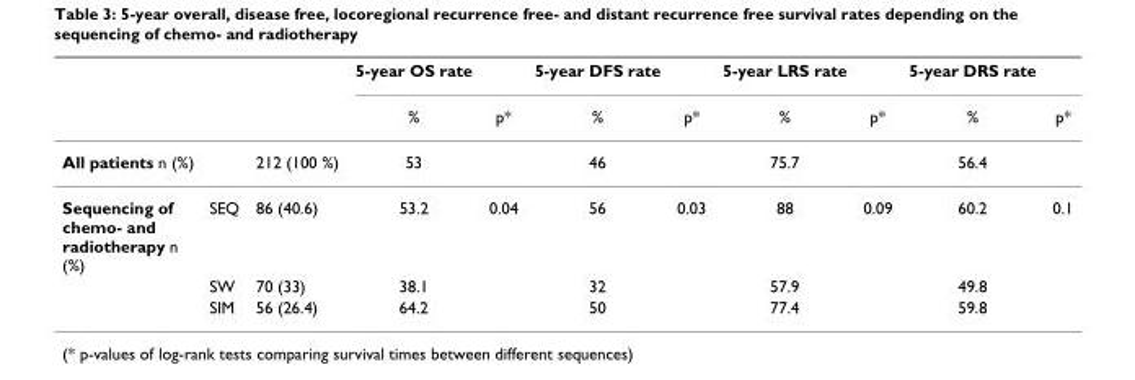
<table><thead><tr><td rowspan="2"></td><td rowspan="2"></td><td rowspan="2"></td><td rowspan="2">5-year OS rate %</td><td rowspan="2">p*</td><td rowspan="2">5-year DFS rate %</td><td rowspan="2">p*</td><td rowspan="2">5-year LRS rate %</td><td rowspan="2">p*</td><td rowspan="2">5-year DRS rate %</td><td rowspan="2">p*</td></tr><tr></tr></thead><tbody><tr><td colspan="2">All patients n (%)</td><td>212 (100 %)</td><td>53</td><td></td><td>46</td><td></td><td>75.7</td><td></td><td>56.4</td><td></td></tr><tr><td rowspan="3">Sequencing of chemo- and radiotherapy n (%)</td><td>SEQ</td><td>86 (40.6)</td><td>53.2</td><td>0.04</td><td>56</td><td>0.03</td><td>88</td><td>0.09</td><td>60.2</td><td>0.1</td></tr><tr><td>SW</td><td>70 (33)</td><td>38.1</td><td></td><td>32</td><td></td><td>57.9</td><td></td><td>49.8</td><td></td></tr><tr><td>SIM</td><td>56 (26.4)</td><td>64.2</td><td></td><td>50</td><td></td><td>77.4</td><td></td><td>59.8</td><td></td></tr></tbody></table>